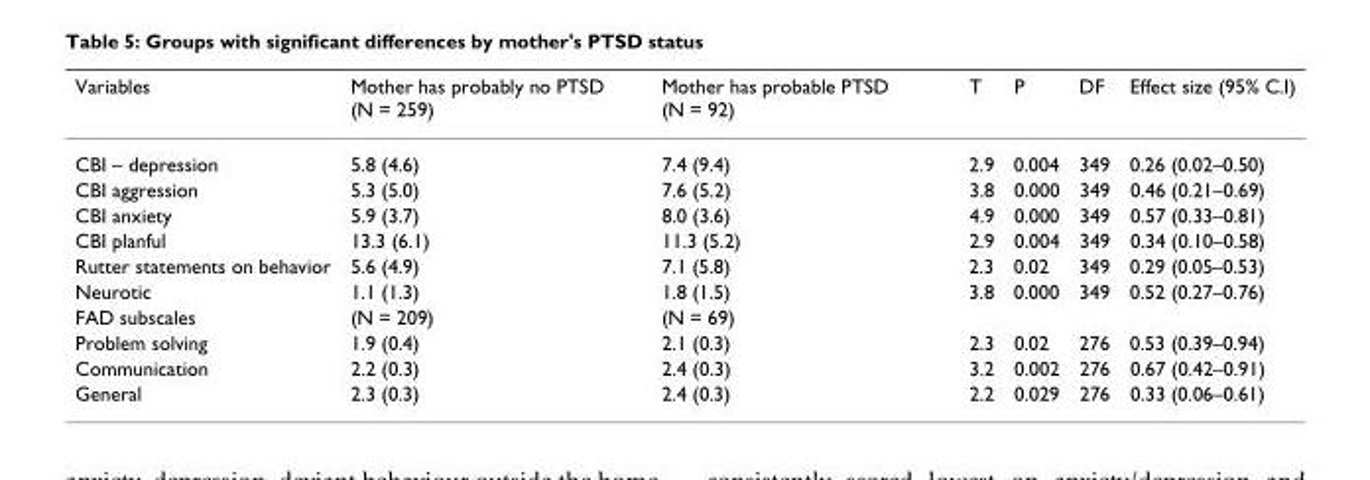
<table><thead><tr><td>Variables</td><td>Mother has probably no PTSD (N = 259)</td><td>Mother has probable PTSD (N = 92)</td><td>T</td><td>P</td><td>DF</td><td>Effect size (95% C.I)</td></tr></thead><tbody><tr><td>CBI – depression</td><td>5.8 (4.6)</td><td>7.4 (9.4)</td><td>2.9</td><td>0.004</td><td>349</td><td>0.26 (0.02–0.50)</td></tr><tr><td>CBI aggression</td><td>5.3 (5.0)</td><td>7.6 (5.2)</td><td>3.8</td><td>0.000</td><td>349</td><td>0.46 (0.21–0.69)</td></tr><tr><td>CBI anxiety</td><td>5.9 (3.7)</td><td>8.0 (3.6)</td><td>4.9</td><td>0.000</td><td>349</td><td>0.57 (0.33–0.81)</td></tr><tr><td>CBI planful</td><td>13.3 (6.1)</td><td>11.3 (5.2)</td><td>2.9</td><td>0.004</td><td>349</td><td>0.34 (0.10–0.58)</td></tr><tr><td>Rutter statements on behavior</td><td>5.6 (4.9)</td><td>7.1 (5.8)</td><td>2.3</td><td>0.02</td><td>349</td><td>0.29 (0.05–0.53)</td></tr><tr><td>Neurotic</td><td>1.1 (1.3)</td><td>1.8 (1.5)</td><td>3.8</td><td>0.000</td><td>349</td><td>0.52 (0.27–0.76)</td></tr><tr><td>FAD subscales</td><td>(N = 209)</td><td>(N = 69)</td><td></td><td></td><td></td><td></td></tr><tr><td>Problem solving</td><td>1.9 (0.4)</td><td>2.1 (0.3)</td><td>2.3</td><td>0.02</td><td>276</td><td>0.53 (0.39–0.94)</td></tr><tr><td>Communication</td><td>2.2 (0.3)</td><td>2.4 (0.3)</td><td>3.2</td><td>0.002</td><td>276</td><td>0.67 (0.42–0.91)</td></tr><tr><td>General</td><td>2.3 (0.3)</td><td>2.4 (0.3)</td><td>2.2</td><td>0.029</td><td>276</td><td>0.33 (0.06–0.61)</td></tr></tbody></table>